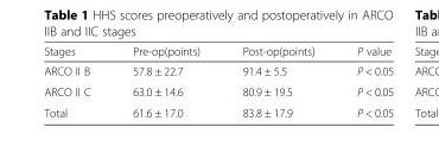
<table><thead><tr><td>Stages</td><td>Pre-op(points)</td><td>Post-op(points)</td><td>P value</td></tr></thead><tbody><tr><td>ARCO II B</td><td>57.8 ± 22.7</td><td>91.4 ± 5.5</td><td>P &lt; 0.05</td></tr><tr><td>ARCO II C</td><td>63.0 ± 14.6</td><td>80.9 ± 19.5</td><td>P &lt; 0.05</td></tr><tr><td>Total</td><td>61.6 ± 17.0</td><td>83.8 ± 17.9</td><td>P &lt; 0.05</td></tr></tbody></table>